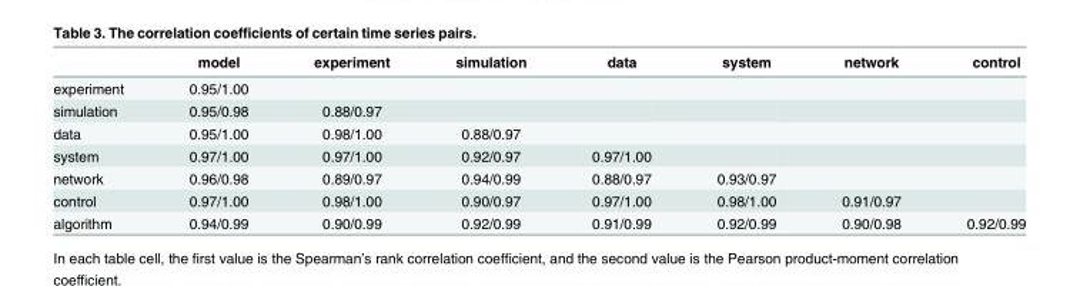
<table><thead><tr><td></td><td>model</td><td>experiment</td><td>simulation</td><td>data</td><td>system</td><td>network</td><td>control</td></tr></thead><tbody><tr><td>experiment</td><td>0.95/1.00</td><td></td><td></td><td></td><td></td><td></td><td></td></tr><tr><td>simulation</td><td>0.95/0.98</td><td>0.88/0.97</td><td></td><td></td><td></td><td></td><td></td></tr><tr><td>data</td><td>0.95/1.00</td><td>0.98/1.00</td><td>0.88/0.97</td><td></td><td></td><td></td><td></td></tr><tr><td>system</td><td>0.97/1.00</td><td>0.97/1.00</td><td>0.92/0.97</td><td>0.97/1.00</td><td></td><td></td><td></td></tr><tr><td>network</td><td>0.96/0.98</td><td>0.89/0.97</td><td>0.94/0.99</td><td>0.88/0.97</td><td>0.93/0.97</td><td></td><td></td></tr><tr><td>control</td><td>0.97/1.00</td><td>0.98/1.00</td><td>0.90/0.97</td><td>0.97/1.00</td><td>0.98/1.00</td><td>0.91/0.97</td><td></td></tr><tr><td>algorithm</td><td>0.94/0.99</td><td>0.90/0.99</td><td>0.92/0.99</td><td>0.91/0.99</td><td>0.92/0.99</td><td>0.90/0.98</td><td>0.92/0.99</td></tr></tbody></table>